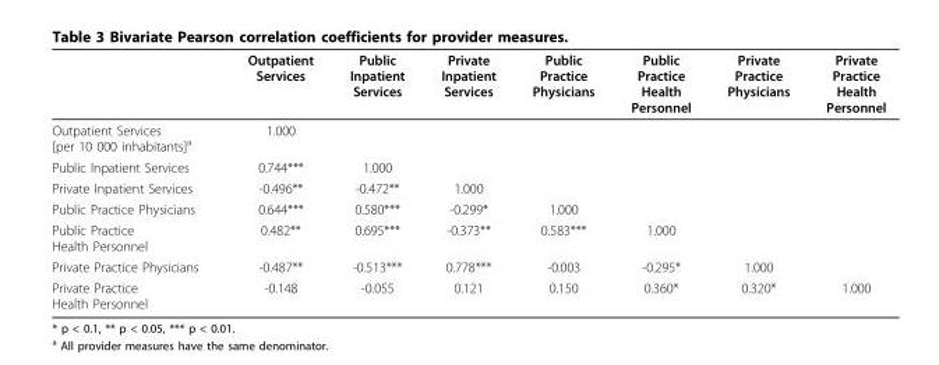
<table><thead><tr><td></td><td>Outpatient Services</td><td>Public Inpatient Services</td><td>Private Inpatient Services</td><td>Public Practice Physicians</td><td>Public Practice Health Personnel</td><td>Private Practice Physicians</td><td>Private Practice Health Personnel</td></tr></thead><tbody><tr><td>Outpatient Services [per 10 000 inhabitants]<sup>a</sup></td><td>1.000</td><td></td><td></td><td></td><td></td><td></td><td></td></tr><tr><td>Public Inpatient Services</td><td>0.744***</td><td>1.000</td><td></td><td></td><td></td><td></td><td></td></tr><tr><td>Private Inpatient Services</td><td>-0.496**</td><td>-0.472**</td><td>1.000</td><td></td><td></td><td></td><td></td></tr><tr><td>Public Practice Physicians</td><td>0.644***</td><td>0.580***</td><td>-0.299*</td><td>1.000</td><td></td><td></td><td></td></tr><tr><td>Public Practice Health Personnel</td><td>0.482**</td><td>0.695***</td><td>-0.373**</td><td>0.583***</td><td>1.000</td><td></td><td></td></tr><tr><td>Private Practice Physicians</td><td>-0.487**</td><td>-0.513***</td><td>0.778***</td><td>-0.003</td><td>-0.295*</td><td>1.000</td><td></td></tr><tr><td>Private Practice Health Personnel</td><td>-0.148</td><td>-0.055</td><td>0.121</td><td>0.150</td><td>0.360*</td><td>0.320*</td><td>1.000</td></tr></tbody></table>